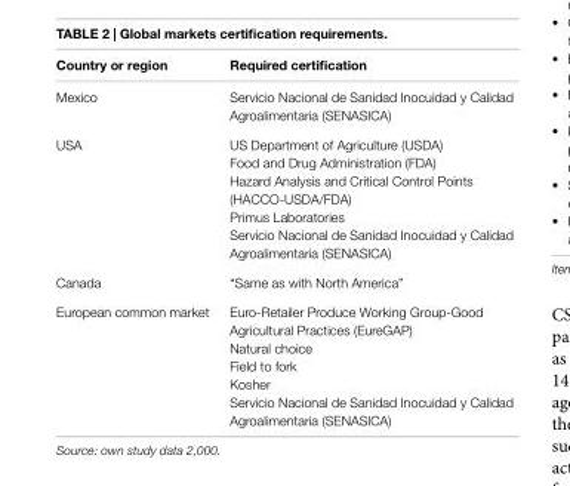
<table><thead><tr><td>country or region</td><td>required certification</td></tr></thead><tbody><tr><td>Mexico</td><td>Servicio Nacional de Sanidad Inocuidad y Calidad Agroalimentaria (SENASICA)</td></tr><tr><td rowspan="5">USA</td><td>US Department of Agriculture (USDA)</td></tr><tr><td>Food and Drug Administration (FDA)</td></tr><tr><td>Hazard Analysis and Critical Control Points (HACCO-USDA/FDA)</td></tr><tr><td>Primus Laboratories</td></tr><tr><td>Servicio Nacional de Sanidad Inocuidad y Calidad Agroalimentaria (SENASICA)</td></tr><tr><td>Canada</td><td>“Same as with North America”</td></tr><tr><td rowspan="5">European common market</td><td>Euro-Retailer Produce Working Group-Good Agricultural Practices (EureGAP)</td></tr><tr><td>Natural choice</td></tr><tr><td>Field to fork</td></tr><tr><td>Kosher</td></tr><tr><td>Servicio Nacional de Sanidad Inocuidad y Calidad Agroalimentaria (SENASICA)</td></tr></tbody></table>